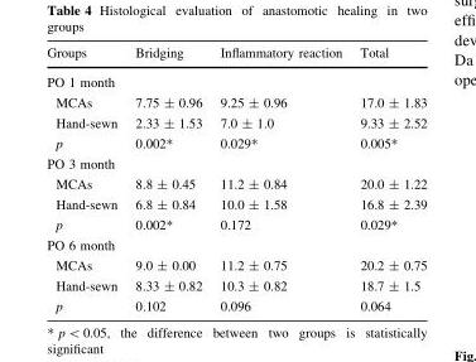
<table><thead><tr><td>Groups</td><td>Bridging</td><td>Inflammatory reaction</td><td>Total</td></tr></thead><tbody><tr><td colspan="4">PO 1 month</td></tr><tr><td>MCAs</td><td>7.75 ± 0.96</td><td>9.25 ± 0.96</td><td>17.0 ± 1.83</td></tr><tr><td>Hand-sewn</td><td>2.33 ± 1.53</td><td>7.0 ± 1.0</td><td>9.33 ± 2.52</td></tr><tr><td>p</td><td>0.002*</td><td>0.029*</td><td>0.005*</td></tr><tr><td colspan="4">PO 3 month</td></tr><tr><td>MCAs</td><td>8.8 ± 0.45</td><td>11.2 ± 0.84</td><td>20.0 ± 1.22</td></tr><tr><td>Hand-sewn</td><td>6.8 ± 0.84</td><td>10.0 ± 1.58</td><td>16.8 ± 2.39</td></tr><tr><td>p</td><td>0.002*</td><td>0.172</td><td>0.029*</td></tr><tr><td colspan="4">PO 6 month</td></tr><tr><td>MCAs</td><td>9.0 ± 0.00</td><td>11.2 ± 0.75</td><td>20.2 ± 0.75</td></tr><tr><td>Hand-sewn</td><td>8.33 ± 0.82</td><td>10.3 ± 0.82</td><td>18.7 ± 1.5</td></tr><tr><td>p</td><td>0.102</td><td>0.096</td><td>0.064</td></tr></tbody></table>